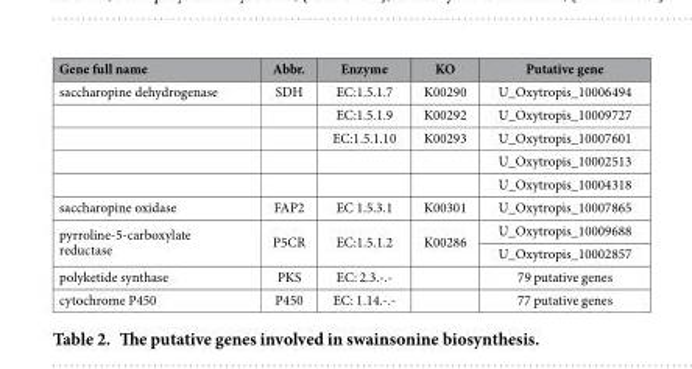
<table><thead><tr><td>Gene full name</td><td>Abbr.</td><td>Enzyme</td><td>KO</td><td>Putative gene</td></tr></thead><tbody><tr><td rowspan="5">saccharopine dehydrogenase</td><td>SDH</td><td>EC:1.5.1.7</td><td>K00290</td><td>U_Oxytropis_10006494</td></tr><tr><td></td><td>EC:1.5.1.9</td><td>K00292</td><td>U_Oxytropis_10009727</td></tr><tr><td></td><td>EC:1.5.1.10</td><td>K00293</td><td>U_Oxytropis_10007601</td></tr><tr><td></td><td></td><td></td><td>U_Oxytropis_10002513</td></tr><tr><td></td><td></td><td></td><td>U_Oxytropis_10004318</td></tr><tr><td>saccharopine oxidase</td><td>FAP2</td><td>EC 1.5.3.1</td><td>K00301</td><td>U_Oxytropis_10007865</td></tr><tr><td rowspan="2">pyrroline-5-carboxylate reductase</td><td rowspan="2">P5CR</td><td rowspan="2">EC:1.5.1.2</td><td rowspan="2">K00286</td><td>U_Oxytropis_10009688</td></tr><tr><td>U_Oxytropis_10002857</td></tr><tr><td>polyketide synthase</td><td>PKS</td><td>EC: 2.3.-.-</td><td></td><td>79 putative genes</td></tr><tr><td>cytochrome P450</td><td>P450</td><td>EC: 1.14.-.-</td><td></td><td>77 putative genes</td></tr></tbody></table>